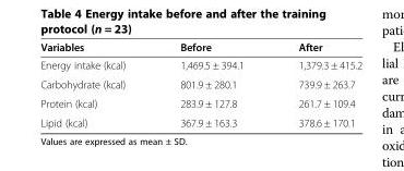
<table><thead><tr><td>Variables</td><td>Before</td><td>After</td></tr></thead><tbody><tr><td>Energy intake (kcal)</td><td>1,469.5 ± 394.1</td><td>1,379.3 ± 415.2</td></tr><tr><td>Carbohydrate (kcal)</td><td>801.9 ± 280.1</td><td>739.9 ± 263.7</td></tr><tr><td>Protein (kcal)</td><td>283.9 ± 127.8</td><td>261.7 ± 109.4</td></tr><tr><td>Lipid (kcal)</td><td>367.9 ± 163.3</td><td>378.6 ± 170.1</td></tr></tbody></table>